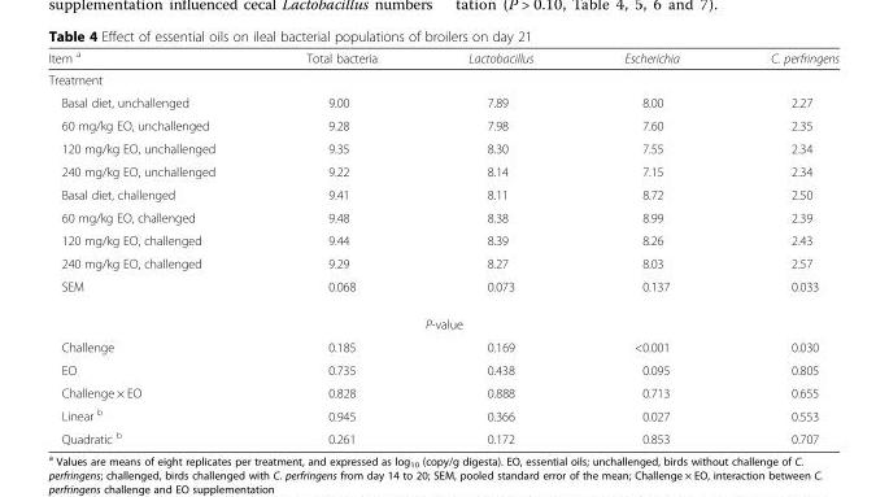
<table><thead><tr><td>Item <sup>a</sup></td><td>Total bacteria</td><td>Lactobacillus</td><td>Escherichia</td><td>C. perfringens</td></tr></thead><tbody><tr><td colspan="5">Treatment</td></tr><tr><td>Basal diet, unchallenged</td><td>9.00</td><td>7.89</td><td>8.00</td><td>2.27</td></tr><tr><td>60 mg/kg EO, unchallenged</td><td>9.28</td><td>7.98</td><td>7.60</td><td>2.35</td></tr><tr><td>120 mg/kg EO, unchallenged</td><td>9.35</td><td>8.30</td><td>7.55</td><td>2.34</td></tr><tr><td>240 mg/kg EO, unchallenged</td><td>9.22</td><td>8.14</td><td>7.15</td><td>2.34</td></tr><tr><td>Basal diet, challenged</td><td>9.41</td><td>8.11</td><td>8.72</td><td>2.50</td></tr><tr><td>60 mg/kg EO, challenged</td><td>9.48</td><td>8.38</td><td>8.99</td><td>2.39</td></tr><tr><td>120 mg/kg EO, challenged</td><td>9.44</td><td>8.39</td><td>8.26</td><td>2.43</td></tr><tr><td>240 mg/kg EO, challenged</td><td>9.29</td><td>8.27</td><td>8.03</td><td>2.57</td></tr><tr><td>SEM</td><td>0.068</td><td>0.073</td><td>0.137</td><td>0.033</td></tr><tr><td colspan="5">P-value</td></tr><tr><td>Challenge</td><td>0.185</td><td>0.169</td><td>&lt;0.001</td><td>0.030</td></tr><tr><td>EO</td><td>0.735</td><td>0.438</td><td>0.095</td><td>0.805</td></tr><tr><td>Challenge × EO</td><td>0.828</td><td>0.888</td><td>0.713</td><td>0.655</td></tr><tr><td>Linear <sup>b</sup></td><td>0.945</td><td>0.366</td><td>0.027</td><td>0.553</td></tr><tr><td>Quadratic <sup>b</sup></td><td>0.261</td><td>0.172</td><td>0.853</td><td>0.707</td></tr></tbody></table>